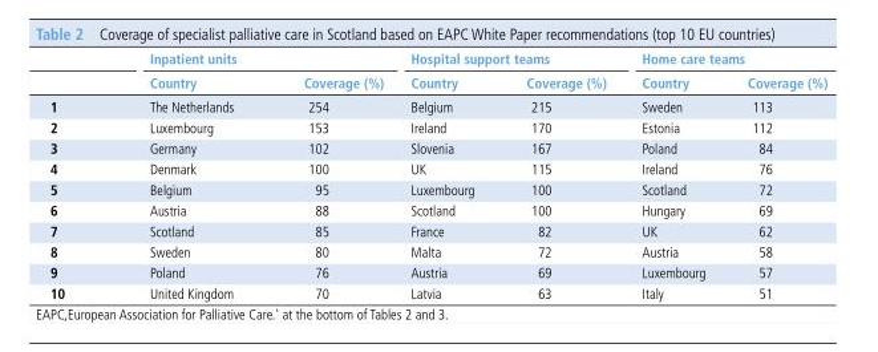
<table><thead><tr><td rowspan="2"></td><td colspan="2">Inpatient units</td><td colspan="2">Hospital support teams</td><td colspan="2">Home care teams</td></tr><tr><td>Country</td><td>Coverage (%)</td><td>Country</td><td>Coverage (%)</td><td>Country</td><td>Coverage (%)</td></tr></thead><tbody><tr><td>1</td><td>The Netherlands</td><td>254</td><td>Belgium</td><td>215</td><td>Sweden</td><td>113</td></tr><tr><td>2</td><td>Luxembourg</td><td>153</td><td>Ireland</td><td>170</td><td>Estonia</td><td>112</td></tr><tr><td>3</td><td>Germany</td><td>102</td><td>Slovenia</td><td>167</td><td>Poland</td><td>84</td></tr><tr><td>4</td><td>Denmark</td><td>100</td><td>UK</td><td>115</td><td>Ireland</td><td>76</td></tr><tr><td>5</td><td>Belgium</td><td>95</td><td>Luxembourg</td><td>100</td><td>Scotland</td><td>72</td></tr><tr><td>6</td><td>Austria</td><td>88</td><td>Scotland</td><td>100</td><td>Hungary</td><td>69</td></tr><tr><td>7</td><td>Scotland</td><td>85</td><td>France</td><td>82</td><td>UK</td><td>62</td></tr><tr><td>8</td><td>Sweden</td><td>80</td><td>Malta</td><td>72</td><td>Austria</td><td>58</td></tr><tr><td>9</td><td>Poland</td><td>76</td><td>Austria</td><td>69</td><td>Luxembourg</td><td>57</td></tr><tr><td>10</td><td>United Kingdom</td><td>70</td><td>Latvia</td><td>63</td><td>Italy</td><td>51</td></tr></tbody></table>